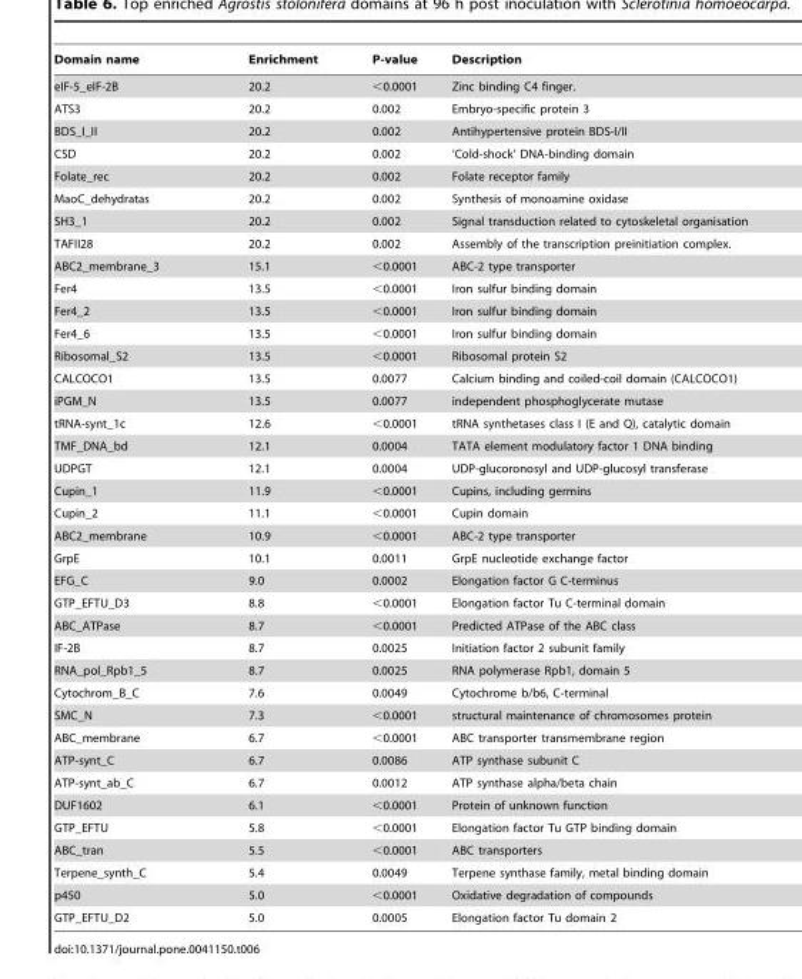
<table><thead><tr><td>Domain name</td><td>Enrichment</td><td>P-value</td><td>Description</td></tr></thead><tbody><tr><td>eIF-5_eIF-2B</td><td>20.2</td><td>&lt;0.0001</td><td>Zinc binding C4 finger.</td></tr><tr><td>ATS3</td><td>20.2</td><td>0.002</td><td>Embryo-specific protein 3</td></tr><tr><td>BDS_I_II</td><td>20.2</td><td>0.002</td><td>Antihypertensive protein BDS-I/II</td></tr><tr><td>CSD</td><td>20.2</td><td>0.002</td><td>‘Cold-shock’ DNA-binding domain</td></tr><tr><td>Folate_rec</td><td>20.2</td><td>0.002</td><td>Folate receptor family</td></tr><tr><td>MaoC_dehydratas</td><td>20.2</td><td>0.002</td><td>Synthesis of monoamine oxidase</td></tr><tr><td>SH3_1</td><td>20.2</td><td>0.002</td><td>Signal transduction related to cytoskeletal organisation</td></tr><tr><td>TAFII28</td><td>20.2</td><td>0.002</td><td>Assembly of the transcription preinitiation complex.</td></tr><tr><td>ABC2_membrane_3</td><td>15.1</td><td>&lt;0.0001</td><td>ABC-2 type transporter</td></tr><tr><td>Fer4</td><td>13.5</td><td>&lt;0.0001</td><td>Iron sulfur binding domain</td></tr><tr><td>Fer4_2</td><td>13.5</td><td>&lt;0.0001</td><td>Iron sulfur binding domain</td></tr><tr><td>Fer4_6</td><td>13.5</td><td>&lt;0.0001</td><td>Iron sulfur binding domain</td></tr><tr><td>Ribosomal_S2</td><td>13.5</td><td>&lt;0.0001</td><td>Ribosomal protein S2</td></tr><tr><td>CALCOCO1</td><td>13.5</td><td>0.0077</td><td>Calcium binding and coiled-coil domain (CALCOCO1)</td></tr><tr><td>iPGM_N</td><td>13.5</td><td>0.0077</td><td>independent phosphoglycerate mutase</td></tr><tr><td>tRNA-synt_1c</td><td>12.6</td><td>&lt;0.0001</td><td>tRNA synthetases class I (E and Q), catalytic domain</td></tr><tr><td>TMF_DNA_bd</td><td>12.1</td><td>0.0004</td><td>TATA element modulatory factor 1 DNA binding</td></tr><tr><td>UDPGT</td><td>12.1</td><td>0.0004</td><td>UDP-glucoronosyl and UDP-glucosyl transferase</td></tr><tr><td>Cupin_1</td><td>11.9</td><td>&lt;0.0001</td><td>Cupins, including germins</td></tr><tr><td>Cupin_2</td><td>11.1</td><td>&lt;0.0001</td><td>Cupin domain</td></tr><tr><td>ABC2_membrane</td><td>10.9</td><td>&lt;0.0001</td><td>ABC-2 type transporter</td></tr><tr><td>GrpE</td><td>10.1</td><td>0.0011</td><td>GrpE nucleotide exchange factor</td></tr><tr><td>EFG_C</td><td>9.0</td><td>0.0002</td><td>Elongation factor G C-terminus</td></tr><tr><td>GTP_EFTU_D3</td><td>8.8</td><td>&lt;0.0001</td><td>Elongation factor Tu C-terminal domain</td></tr><tr><td>ABC_ATPase</td><td>8.7</td><td>&lt;0.0001</td><td>Predicted ATPase of the ABC class</td></tr><tr><td>IF-2B</td><td>8.7</td><td>0.0025</td><td>Initiation factor 2 subunit family</td></tr><tr><td>RNA_pol_Rpb1_5</td><td>8.7</td><td>0.0025</td><td>RNA polymerase Rpb1, domain 5</td></tr><tr><td>Cytochrom_B_C</td><td>7.6</td><td>0.0049</td><td>Cytochrome b/b6, C-terminal</td></tr><tr><td>SMC_N</td><td>7.3</td><td>&lt;0.0001</td><td>structural maintenance of chromosomes protein</td></tr><tr><td>ABC_membrane</td><td>6.7</td><td>&lt;0.0001</td><td>ABC transporter transmembrane region</td></tr><tr><td>ATP-synt_C</td><td>6.7</td><td>0.0086</td><td>ATP synthase subunit C</td></tr><tr><td>ATP-synt_ab_C</td><td>6.7</td><td>0.0012</td><td>ATP synthase alpha/beta chain</td></tr><tr><td>DUF1602</td><td>6.1</td><td>&lt;0.0001</td><td>Protein of unknown function</td></tr><tr><td>GTP_EFTU</td><td>5.8</td><td>&lt;0.0001</td><td>Elongation factor Tu GTP binding domain</td></tr><tr><td>ABC_tran</td><td>5.5</td><td>&lt;0.0001</td><td>ABC transporters</td></tr><tr><td>Terpene_synth_C</td><td>5.4</td><td>0.0049</td><td>Terpene synthase family, metal binding domain</td></tr><tr><td>p450</td><td>5.0</td><td>&lt;0.0001</td><td>Oxidative degradation of compounds</td></tr><tr><td>GTP_EFTU_D2</td><td>5.0</td><td>0.0005</td><td>Elongation factor Tu domain 2</td></tr></tbody></table>